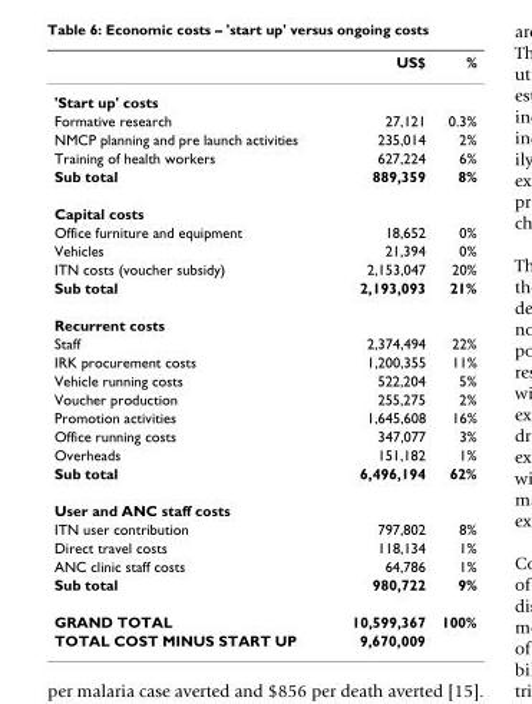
<table><thead><tr><td></td><td>US$</td><td>%</td></tr></thead><tbody><tr><td colspan="3">&#x27;Start up&#x27; costs</td></tr><tr><td>Formative research</td><td>27,121</td><td>0.3%</td></tr><tr><td>NMCP planning and pre launch activities</td><td>235,014</td><td>2%</td></tr><tr><td>Training of health workers</td><td>627,224</td><td>6%</td></tr><tr><td>Sub total</td><td>889,359</td><td>8%</td></tr><tr><td colspan="3">Capital costs</td></tr><tr><td>Office furniture and equipment</td><td>18,652</td><td>0%</td></tr><tr><td>Vehicles</td><td>21,394</td><td>0%</td></tr><tr><td>ITN costs (voucher subsidy)</td><td>2,153,047</td><td>20%</td></tr><tr><td>Sub total</td><td>2,193,093</td><td>21%</td></tr><tr><td colspan="3">Recurrent costs</td></tr><tr><td>Staff</td><td>2,374,494</td><td>22%</td></tr><tr><td>IRK procurement costs</td><td>1,200,355</td><td>11%</td></tr><tr><td>Vehicle running costs</td><td>522,204</td><td>5%</td></tr><tr><td>Voucher production</td><td>255,275</td><td>2%</td></tr><tr><td>Promotion activities</td><td>1,645,608</td><td>16%</td></tr><tr><td>Office running costs</td><td>347,077</td><td>3%</td></tr><tr><td>Overheads</td><td>151,182</td><td>1%</td></tr><tr><td>Sub total</td><td>6,496,194</td><td>62%</td></tr><tr><td colspan="3">User and ANC staff costs</td></tr><tr><td>ITN user contribution</td><td>797,802</td><td>8%</td></tr><tr><td>Direct travel costs</td><td>118,134</td><td>1%</td></tr><tr><td>ANC clinic staff costs</td><td>64,786</td><td>1%</td></tr><tr><td>Sub total</td><td>980,722</td><td>9%</td></tr><tr><td>GRAND TOTAL</td><td>10,599,367</td><td>100%</td></tr><tr><td>TOTAL COST MINUS START UP</td><td>9,670,009</td><td></td></tr></tbody></table>